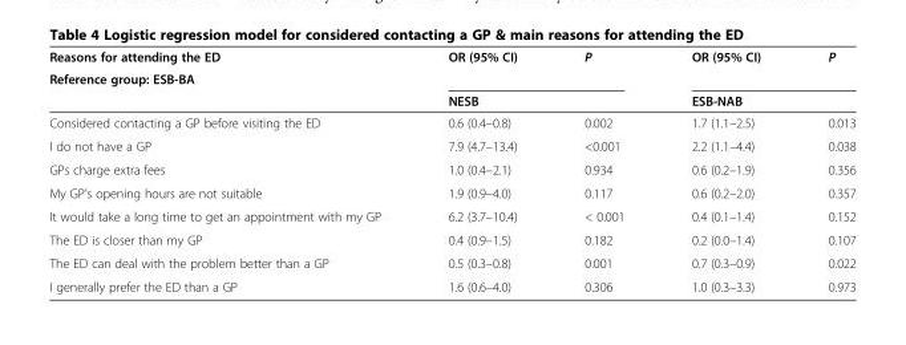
<table><thead><tr><td rowspan="3">Reasons for attending the ED Reference group: ESB-BA</td><td rowspan="2">OR (95% CI)</td><td rowspan="2">P</td><td rowspan="2">OR (95% CI)</td><td rowspan="2">P</td></tr><tr></tr><tr><td colspan="2">NESB</td><td colspan="2">ESB-NAB</td></tr></thead><tbody><tr><td>Considered contacting a GP before visiting the ED</td><td>0.6 (0.4–0.8)</td><td>0.002</td><td>1.7 (1.1–2.5)</td><td>0.013</td></tr><tr><td>I do not have a GP</td><td>7.9 (4.7–13.4)</td><td>&lt;0.001</td><td>2.2 (1.1–4.4)</td><td>0.038</td></tr><tr><td>GPs charge extra fees</td><td>1.0 (0.4–2.1)</td><td>0.934</td><td>0.6 (0.2–1.9)</td><td>0.356</td></tr><tr><td>My GP’s opening hours are not suitable</td><td>1.9 (0.9–4.0)</td><td>0.117</td><td>0.6 (0.2–2.0)</td><td>0.357</td></tr><tr><td>It would take a long time to get an appointment with my GP</td><td>6.2 (3.7–10.4)</td><td>&lt; 0.001</td><td>0.4 (0.1–1.4)</td><td>0.152</td></tr><tr><td>The ED is closer than my GP</td><td>0.4 (0.9–1.5)</td><td>0.182</td><td>0.2 (0.0–1.4)</td><td>0.107</td></tr><tr><td>The ED can deal with the problem better than a GP</td><td>0.5 (0.3–0.8)</td><td>0.001</td><td>0.7 (0.3–0.9)</td><td>0.022</td></tr><tr><td>I generally prefer the ED than a GP</td><td>1.6 (0.6–4.0)</td><td>0.306</td><td>1.0 (0.3–3.3)</td><td>0.973</td></tr></tbody></table>